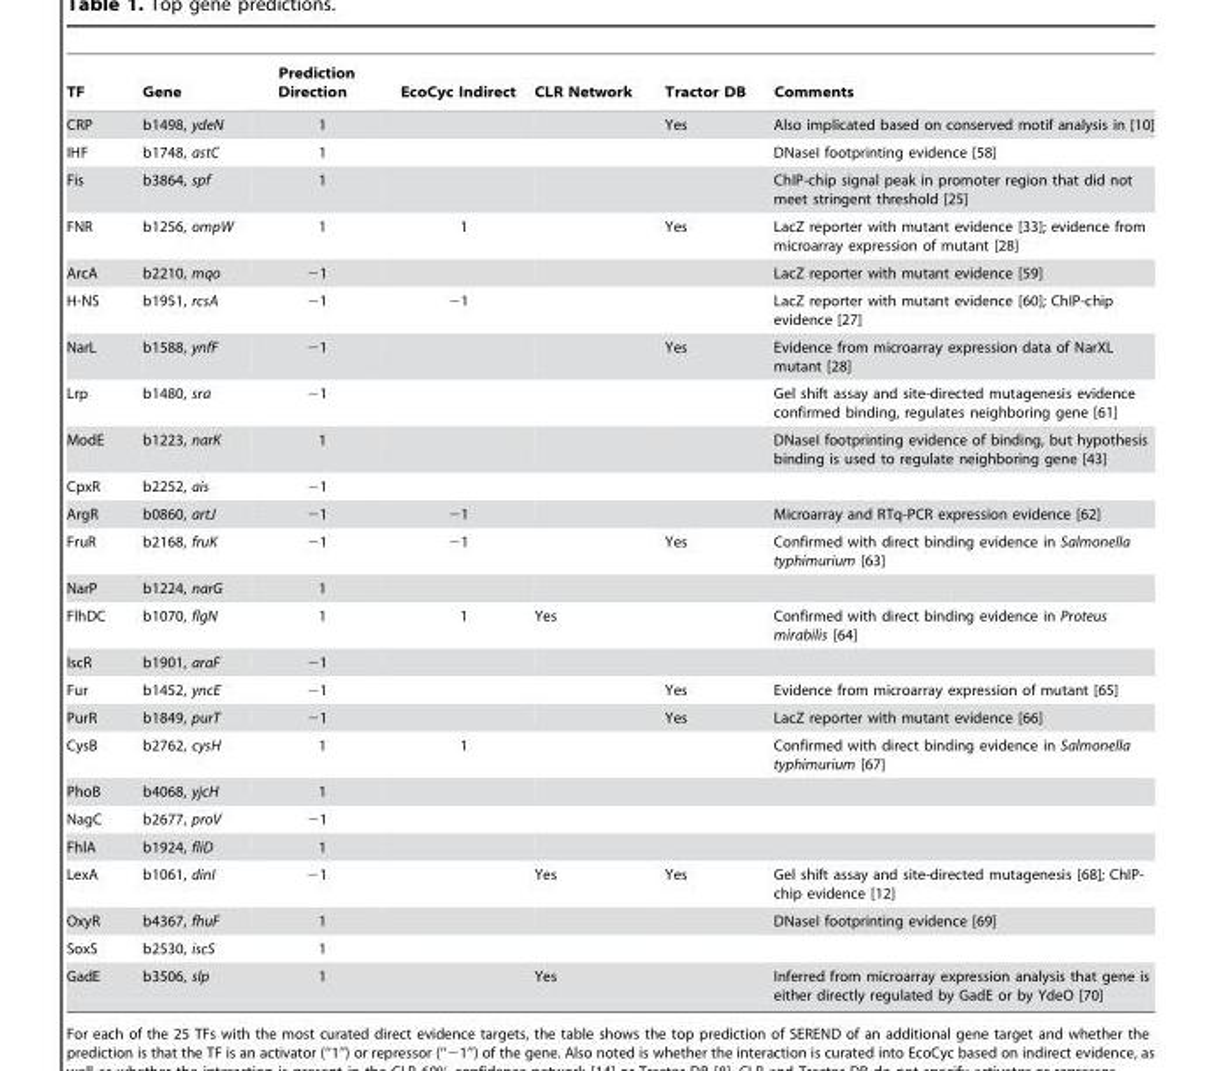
<table><thead><tr><td>TF</td><td>Gene</td><td>Prediction Direction</td><td>EcoCyc Indirect</td><td>CLR Network</td><td>Tractor DB</td><td>Comments</td></tr></thead><tbody><tr><td>CRP</td><td>b1498, ydeN</td><td>1</td><td></td><td></td><td>Yes</td><td>Also implicated based on conserved motif analysis in [10]</td></tr><tr><td>IHF</td><td>b1748, astC</td><td>1</td><td></td><td></td><td></td><td>DNaseI footprinting evidence [58]</td></tr><tr><td>Fis</td><td>b3864, spf</td><td>1</td><td></td><td></td><td></td><td>ChIP-chip signal peak in promoter region that did not meet stringent threshold [25]</td></tr><tr><td>FNR</td><td>b1256, ompW</td><td>1</td><td>1</td><td></td><td>Yes</td><td>LacZ reporter with mutant evidence [33]; evidence from microarray expression of mutant [28]</td></tr><tr><td>ArcA</td><td>b2210, mqo</td><td>−1</td><td></td><td></td><td></td><td>LacZ reporter with mutant evidence [59]</td></tr><tr><td>H-NS</td><td>b1951, rcsA</td><td>−1</td><td>−1</td><td></td><td></td><td>LacZ reporter with mutant evidence [60]; ChIP-chip evidence [27]</td></tr><tr><td>NarL</td><td>b1588, ynfF</td><td>−1</td><td></td><td></td><td>Yes</td><td>Evidence from microarray expression data of NarXL mutant [28]</td></tr><tr><td>Lrp</td><td>b1480, sra</td><td>−1</td><td></td><td></td><td></td><td>Gel shift assay and site-directed mutagenesis evidence confirmed binding, regulates neighboring gene [61]</td></tr><tr><td>ModE</td><td>b1223, narK</td><td>1</td><td></td><td></td><td></td><td>DNaseI footprinting evidence of binding, but hypothesis binding is used to regulate neighboring gene [43]</td></tr><tr><td>CpxR</td><td>b2252, ais</td><td>−1</td><td></td><td></td><td></td><td></td></tr><tr><td>ArgR</td><td>b0860, artJ</td><td>−1</td><td>−1</td><td></td><td></td><td>Microarray and RTq-PCR expression evidence [62]</td></tr><tr><td>FruR</td><td>b2168, fruK</td><td>−1</td><td>−1</td><td></td><td>Yes</td><td>Confirmed with direct binding evidence in Salmonella typhimurium [63]</td></tr><tr><td>NarP</td><td>b1224, narG</td><td>1</td><td></td><td></td><td></td><td></td></tr><tr><td>FlhDC</td><td>b1070, flgN</td><td>1</td><td>1</td><td>Yes</td><td></td><td>Confirmed with direct binding evidence in Proteus mirabilis [64]</td></tr><tr><td>IscR</td><td>b1901, araF</td><td>−1</td><td></td><td></td><td></td><td></td></tr><tr><td>Fur</td><td>b1452, yncE</td><td>−1</td><td></td><td></td><td>Yes</td><td>Evidence from microarray expression of mutant [65]</td></tr><tr><td>PurR</td><td>b1849, purT</td><td>−1</td><td></td><td></td><td>Yes</td><td>LacZ reporter with mutant evidence [66]</td></tr><tr><td>CysB</td><td>b2762, cysH</td><td>1</td><td>1</td><td></td><td></td><td>Confirmed with direct binding evidence in Salmonella typhimurium [67]</td></tr><tr><td>PhoB</td><td>b4068, yjcH</td><td>1</td><td></td><td></td><td></td><td></td></tr><tr><td>NagC</td><td>b2677, proV</td><td>−1</td><td></td><td></td><td></td><td></td></tr><tr><td>FhlA</td><td>b1924, fliD</td><td>1</td><td></td><td></td><td></td><td></td></tr><tr><td>LexA</td><td>b1061, dinI</td><td>−1</td><td></td><td>Yes</td><td>Yes</td><td>Gel shift assay and site-directed mutagenesis [68]; ChIP- chip evidence [12]</td></tr><tr><td>OxyR</td><td>b4367, fhuF</td><td>1</td><td></td><td></td><td></td><td>DNaseI footprinting evidence [69]</td></tr><tr><td>SoxS</td><td>b2530, iscS</td><td>1</td><td></td><td></td><td></td><td></td></tr><tr><td>GadE</td><td>b3506, slp</td><td>1</td><td></td><td>Yes</td><td></td><td>Inferred from microarray expression analysis that gene is either directly regulated by GadE or by YdeO [70]</td></tr></tbody></table>